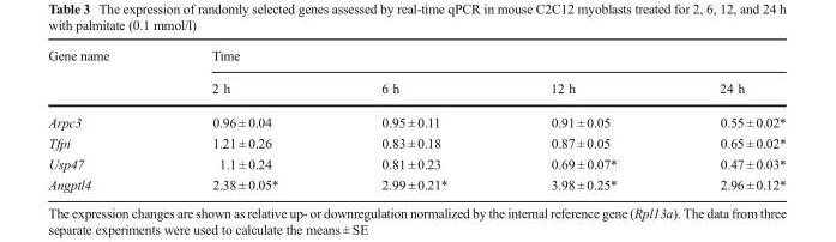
<table><thead><tr><td rowspan="2">Gene name</td><td colspan="4">Time</td></tr><tr><td>2 h</td><td>6 h</td><td>12 h</td><td>24 h</td></tr></thead><tbody><tr><td>Arpc3</td><td>0.96 ± 0.04</td><td>0.95 ± 0.11</td><td>0.91 ± 0.05</td><td>0.55 ± 0.02*</td></tr><tr><td>Tfpi</td><td>1.21 ± 0.26</td><td>0.83 ± 0.18</td><td>0.87 ± 0.05</td><td>0.65 ± 0.02*</td></tr><tr><td>Usp47</td><td>1.1 ± 0.24</td><td>0.81 ± 0.23</td><td>0.69 ± 0.07*</td><td>0.47 ± 0.03*</td></tr><tr><td>Angptl4</td><td>2.38 ± 0.05*</td><td>2.99 ± 0.21*</td><td>3.98 ± 0.25*</td><td>2.96 ± 0.12*</td></tr></tbody></table>